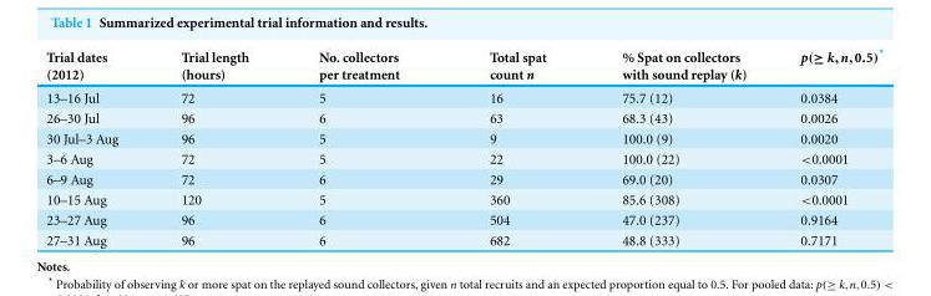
<table><thead><tr><td>Trial dates (2012)</td><td>Trial length (hours)</td><td>No. collectors per treatment</td><td>Total spat count n</td><td>% Spat on collectors with sound replay (k)</td><td>p(≥ k,n,0.5)*</td></tr></thead><tbody><tr><td>13–16 Jul</td><td>72</td><td>5</td><td>16</td><td>75.7 (12)</td><td>0.0384</td></tr><tr><td>26–30 Jul</td><td>96</td><td>6</td><td>63</td><td>68.3 (43)</td><td>0.0026</td></tr><tr><td>30 Jul–3 Aug</td><td>96</td><td>5</td><td>9</td><td>100.0 (9)</td><td>0.0020</td></tr><tr><td>3–6 Aug</td><td>72</td><td>5</td><td>22</td><td>100.0 (22)</td><td>&lt;0.0001</td></tr><tr><td>6–9 Aug</td><td>72</td><td>6</td><td>29</td><td>69.0 (20)</td><td>0.0307</td></tr><tr><td>10–15 Aug</td><td>120</td><td>5</td><td>360</td><td>85.6 (308)</td><td>&lt;0.0001</td></tr><tr><td>23–27 Aug</td><td>96</td><td>6</td><td>504</td><td>47.0 (237)</td><td>0.9164</td></tr><tr><td>27–31 Aug</td><td>96</td><td>6</td><td>682</td><td>48.8 (333)</td><td>0.7171</td></tr></tbody></table>